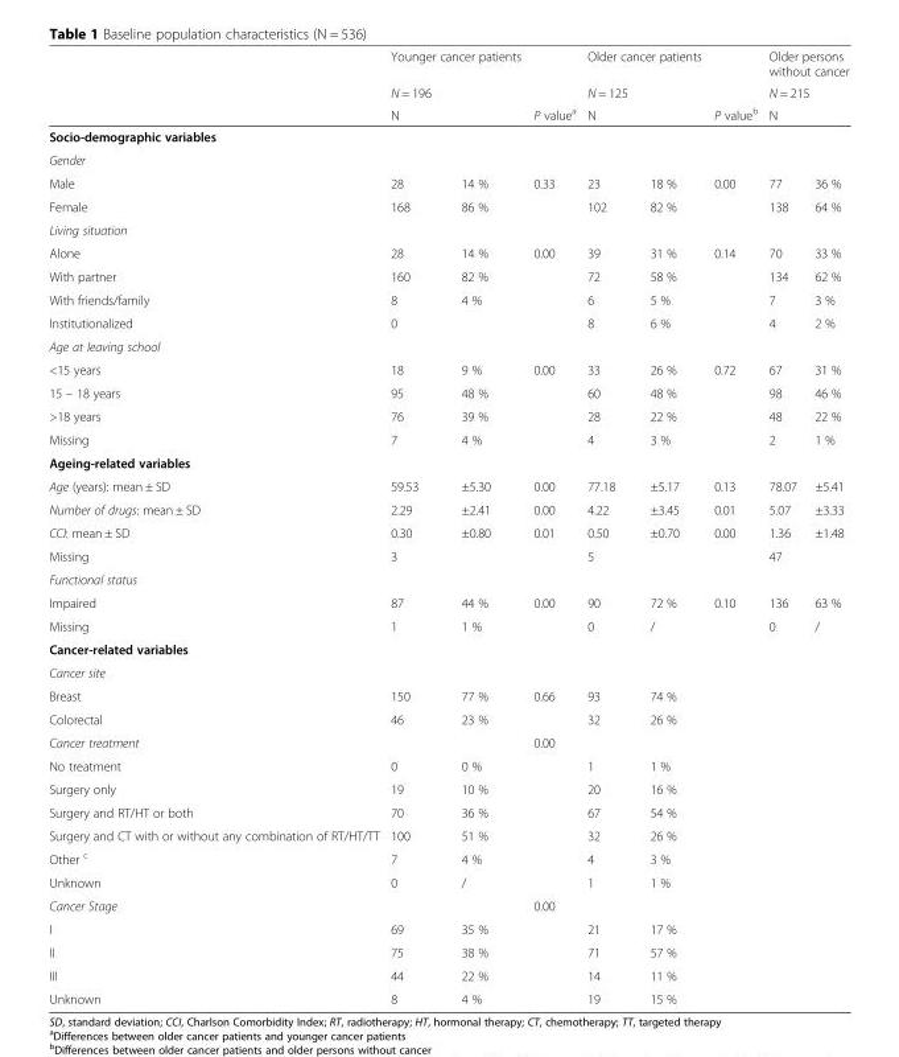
<table><thead><tr><td rowspan="3"></td><td rowspan="2" colspan="2">Younger cancer patients N = 196</td><td rowspan="3">P value<sup>a</sup></td><td rowspan="2" colspan="2">Older cancer patients N = 125</td><td rowspan="3">P value<sup>b</sup></td><td rowspan="2" colspan="2">Older persons without cancer N = 215</td></tr><tr></tr><tr><td>N</td><td></td><td>N</td><td></td><td>N</td><td></td></tr></thead><tbody><tr><td colspan="9">Socio-demographic variables</td></tr><tr><td colspan="9">Gender</td></tr><tr><td>Male</td><td>28</td><td>14 %</td><td>0.33</td><td>23</td><td>18 %</td><td>0.00</td><td>77</td><td>36 %</td></tr><tr><td>Female</td><td>168</td><td>86 %</td><td></td><td>102</td><td>82 %</td><td></td><td>138</td><td>64 %</td></tr><tr><td colspan="9">Living situation</td></tr><tr><td>Alone</td><td>28</td><td>14 %</td><td>0.00</td><td>39</td><td>31 %</td><td>0.14</td><td>70</td><td>33 %</td></tr><tr><td>With partner</td><td>160</td><td>82 %</td><td></td><td>72</td><td>58 %</td><td></td><td>134</td><td>62 %</td></tr><tr><td>With friends/family</td><td>8</td><td>4 %</td><td></td><td>6</td><td>5 %</td><td></td><td>7</td><td>3 %</td></tr><tr><td>Institutionalized</td><td>0</td><td></td><td></td><td>8</td><td>6 %</td><td></td><td>4</td><td>2 %</td></tr><tr><td colspan="9">Age at leaving school</td></tr><tr><td>&lt;15 years</td><td>18</td><td>9 %</td><td>0.00</td><td>33</td><td>26 %</td><td>0.72</td><td>67</td><td>31 %</td></tr><tr><td>15 – 18 years</td><td>95</td><td>48 %</td><td></td><td>60</td><td>48 %</td><td></td><td>98</td><td>46 %</td></tr><tr><td>&gt;18 years</td><td>76</td><td>39 %</td><td></td><td>28</td><td>22 %</td><td></td><td>48</td><td>22 %</td></tr><tr><td>Missing</td><td>7</td><td>4 %</td><td></td><td>4</td><td>3 %</td><td></td><td>2</td><td>1 %</td></tr><tr><td colspan="9">Ageing-related variables</td></tr><tr><td>Age (years): mean ± SD</td><td>59.53</td><td>±5.30</td><td>0.00</td><td>77.18</td><td>±5.17</td><td>0.13</td><td>78.07</td><td>±5.41</td></tr><tr><td>Number of drugs: mean ± SD</td><td>2.29</td><td>±2.41</td><td>0.00</td><td>4.22</td><td>±3.45</td><td>0.01</td><td>5.07</td><td>±3.33</td></tr><tr><td>CCI: mean ± SD</td><td>0.30</td><td>±0.80</td><td>0.01</td><td>0.50</td><td>±0.70</td><td>0.00</td><td>1.36</td><td>±1.48</td></tr><tr><td>Missing</td><td>3</td><td></td><td></td><td>5</td><td></td><td></td><td>47</td><td></td></tr><tr><td colspan="9">Functional status</td></tr><tr><td>Impaired</td><td>87</td><td>44 %</td><td>0.00</td><td>90</td><td>72 %</td><td>0.10</td><td>136</td><td>63 %</td></tr><tr><td>Missing</td><td>1</td><td>1 %</td><td></td><td>0</td><td>/</td><td></td><td>0</td><td>/</td></tr><tr><td colspan="9">Cancer-related variables</td></tr><tr><td colspan="9">Cancer site</td></tr><tr><td>Breast</td><td>150</td><td>77 %</td><td>0.66</td><td>93</td><td>74 %</td><td></td><td></td><td></td></tr><tr><td>Colorectal</td><td>46</td><td>23 %</td><td></td><td>32</td><td>26 %</td><td></td><td></td><td></td></tr><tr><td>Cancer treatment</td><td></td><td></td><td>0.00</td><td></td><td></td><td></td><td></td><td></td></tr><tr><td>No treatment</td><td>0</td><td>0 %</td><td></td><td>1</td><td>1 %</td><td></td><td></td><td></td></tr><tr><td>Surgery only</td><td>19</td><td>10 %</td><td></td><td>20</td><td>16 %</td><td></td><td></td><td></td></tr><tr><td>Surgery and RT/HT or both</td><td>70</td><td>36 %</td><td></td><td>67</td><td>54 %</td><td></td><td></td><td></td></tr><tr><td>Surgery and CT with or without any combination of RT/HT/TT</td><td>100</td><td>51 %</td><td></td><td>32</td><td>26 %</td><td></td><td></td><td></td></tr><tr><td>Other <sup>c</sup></td><td>7</td><td>4 %</td><td></td><td>4</td><td>3 %</td><td></td><td></td><td></td></tr><tr><td>Unknown</td><td>0</td><td>/</td><td></td><td>1</td><td>1 %</td><td></td><td></td><td></td></tr><tr><td>Cancer Stage</td><td></td><td></td><td>0.00</td><td></td><td></td><td></td><td></td><td></td></tr><tr><td>I</td><td>69</td><td>35 %</td><td></td><td>21</td><td>17 %</td><td></td><td></td><td></td></tr><tr><td>II</td><td>75</td><td>38 %</td><td></td><td>71</td><td>57 %</td><td></td><td></td><td></td></tr><tr><td>III</td><td>44</td><td>22 %</td><td></td><td>14</td><td>11 %</td><td></td><td></td><td></td></tr><tr><td>Unknown</td><td>8</td><td>4 %</td><td></td><td>19</td><td>15 %</td><td></td><td></td><td></td></tr></tbody></table>